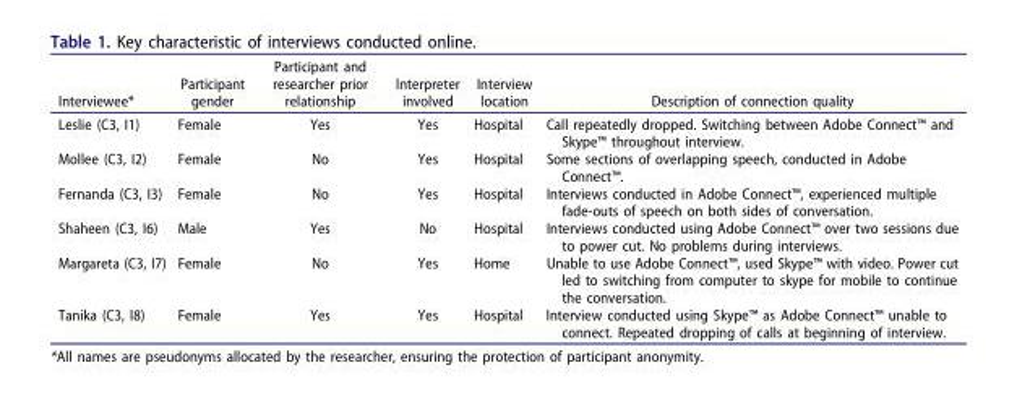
<table><thead><tr><td>Interviewee*</td><td>Participant gender</td><td>Participant and researcher prior relationship</td><td>Interpreter involved</td><td>Interview location</td><td>Description of connection quality</td></tr></thead><tbody><tr><td>Leslie (C3, I1)</td><td>Female</td><td>Yes</td><td>Yes</td><td>Hospital</td><td>Call repeatedly dropped. Switching between Adobe Connect™ and Skype™ throughout interview.</td></tr><tr><td>Mollee (C3, I2)</td><td>Female</td><td>No</td><td>Yes</td><td>Hospital</td><td>Some sections of overlapping speech, conducted in Adobe Connect™.</td></tr><tr><td>Fernanda (C3, I3)</td><td>Female</td><td>No</td><td>Yes</td><td>Hospital</td><td>Interviews conducted in Adobe Connect™, experienced multiple fade-outs of speech on both sides of conversation.</td></tr><tr><td>Shaheen (C3, I6)</td><td>Male</td><td>Yes</td><td>No</td><td>Hospital</td><td>Interviews conducted using Adobe Connect™ over two sessions due to power cut. No problems during interviews.</td></tr><tr><td>Margareta (C3, I7)</td><td>Female</td><td>No</td><td>Yes</td><td>Home</td><td>Unable to use Adobe Connect™, used Skype™ with video. Power cut led to switching from computer to skype for mobile to continue the conversation.</td></tr><tr><td>Tanika (C3, I8)</td><td>Female</td><td>Yes</td><td>Yes</td><td>Hospital</td><td>Interview conducted using Skype™ as Adobe Connect™ unable to connect. Repeated dropping of calls at beginning of interview.</td></tr></tbody></table>